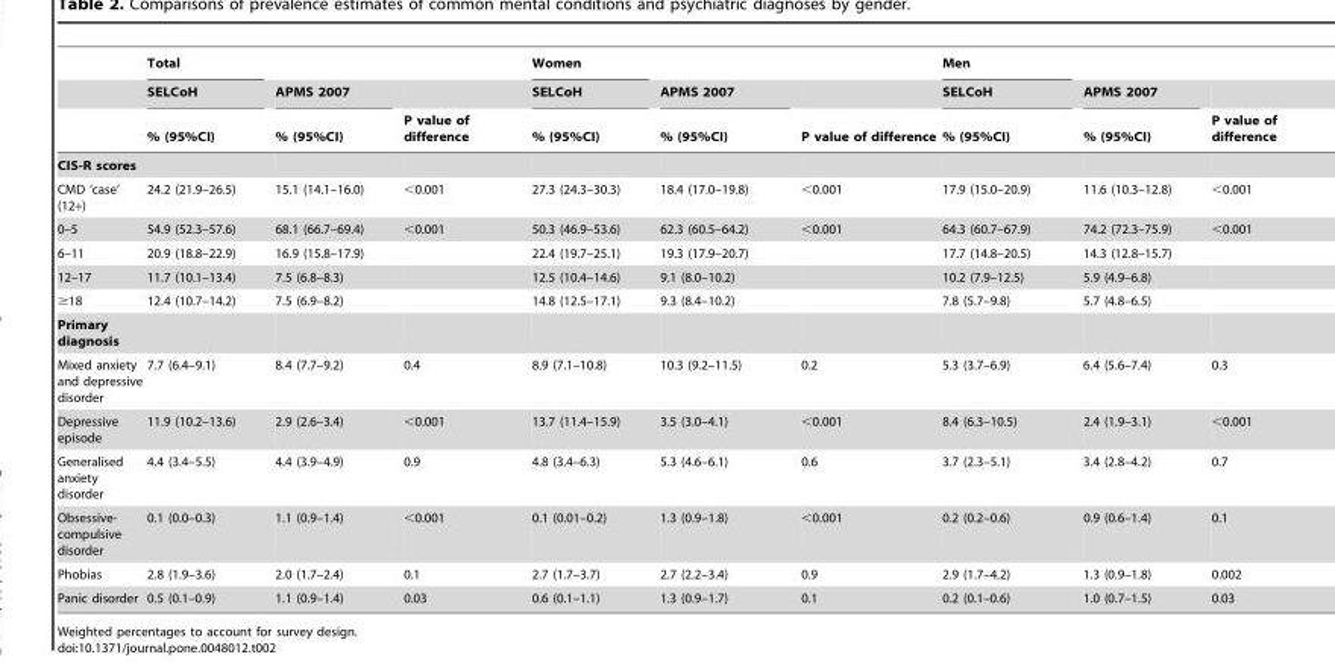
<table><thead><tr><td rowspan="3"></td><td rowspan="3">Total SELCoH % (95%CI)</td><td rowspan="3">APMS 2007 % (95%CI)</td><td rowspan="3">P value of difference</td><td rowspan="3">Women SELCoH % (95%CI)</td><td rowspan="3">APMS 2007 % (95%CI)</td><td rowspan="3">P value of difference</td><td rowspan="3">Men SELCoH % (95%CI)</td><td rowspan="3">APMS 2007 % (95%CI)</td><td rowspan="3">P value of difference</td></tr><tr></tr><tr></tr></thead><tbody><tr><td colspan="10">CIS-R scores</td></tr><tr><td>CMD ‘case’ (12+)</td><td>24.2 (21.9–26.5)</td><td>15.1 (14.1–16.0)</td><td>&lt;0.001</td><td>27.3 (24.3–30.3)</td><td>18.4 (17.0–19.8)</td><td>&lt;0.001</td><td>17.9 (15.0–20.9)</td><td>11.6 (10.3–12.8)</td><td>&lt;0.001</td></tr><tr><td>0–5</td><td>54.9 (52.3–57.6)</td><td>68.1 (66.7–69.4)</td><td>&lt;0.001</td><td>50.3 (46.9–53.6)</td><td>62.3 (60.5–64.2)</td><td>&lt;0.001</td><td>64.3 (60.7–67.9)</td><td>74.2 (72.3–75.9)</td><td>&lt;0.001</td></tr><tr><td>6–11</td><td>20.9 (18.8–22.9)</td><td>16.9 (15.8–17.9)</td><td></td><td>22.4 (19.7–25.1)</td><td>19.3 (17.9–20.7)</td><td></td><td>17.7 (14.8–20.5)</td><td>14.3 (12.8–15.7)</td><td></td></tr><tr><td>12–17</td><td>11.7 (10.1–13.4)</td><td>7.5 (6.8–8.3)</td><td></td><td>12.5 (10.4–14.6)</td><td>9.1 (8.0–10.2)</td><td></td><td>10.2 (7.9–12.5)</td><td>5.9 (4.9–6.8)</td><td></td></tr><tr><td>≥18</td><td>12.4 (10.7–14.2)</td><td>7.5 (6.9–8.2)</td><td></td><td>14.8 (12.5–17.1)</td><td>9.3 (8.4–10.2)</td><td></td><td>7.8 (5.7–9.8)</td><td>5.7 (4.8–6.5)</td><td></td></tr><tr><td colspan="10">Primary diagnosis</td></tr><tr><td>Mixed anxiety and depressive disorder</td><td>7.7 (6.4–9.1)</td><td>8.4 (7.7–9.2)</td><td>0.4</td><td>8.9 (7.1–10.8)</td><td>10.3 (9.2–11.5)</td><td>0.2</td><td>5.3 (3.7–6.9)</td><td>6.4 (5.6–7.4)</td><td>0.3</td></tr><tr><td>Depressive episode</td><td>11.9 (10.2–13.6)</td><td>2.9 (2.6–3.4)</td><td>&lt;0.001</td><td>13.7 (11.4–15.9)</td><td>3.5 (3.0–4.1)</td><td>&lt;0.001</td><td>8.4 (6.3–10.5)</td><td>2.4 (1.9–3.1)</td><td>&lt;0.001</td></tr><tr><td>Generalised anxiety disorder</td><td>4.4 (3.4–5.5)</td><td>4.4 (3.9–4.9)</td><td>0.9</td><td>4.8 (3.4–6.3)</td><td>5.3 (4.6–6.1)</td><td>0.6</td><td>3.7 (2.3–5.1)</td><td>3.4 (2.8–4.2)</td><td>0.7</td></tr><tr><td>Obsessive- compulsive disorder</td><td>0.1 (0.0–0.3)</td><td>1.1 (0.9–1.4)</td><td>&lt;0.001</td><td>0.1 (0.01–0.2)</td><td>1.3 (0.9–1.8)</td><td>&lt;0.001</td><td>0.2 (0.2–0.6)</td><td>0.9 (0.6–1.4)</td><td>0.1</td></tr><tr><td>Phobias</td><td>2.8 (1.9–3.6)</td><td>2.0 (1.7–2.4)</td><td>0.1</td><td>2.7 (1.7–3.7)</td><td>2.7 (2.2–3.4)</td><td>0.9</td><td>2.9 (1.7–4.2)</td><td>1.3 (0.9–1.8)</td><td>0.002</td></tr><tr><td>Panic disorder</td><td>0.5 (0.1–0.9)</td><td>1.1 (0.9–1.4)</td><td>0.03</td><td>0.6 (0.1–1.1)</td><td>1.3 (0.9–1.7)</td><td>0.1</td><td>0.2 (0.1–0.6)</td><td>1.0 (0.7–1.5)</td><td>0.03</td></tr></tbody></table>